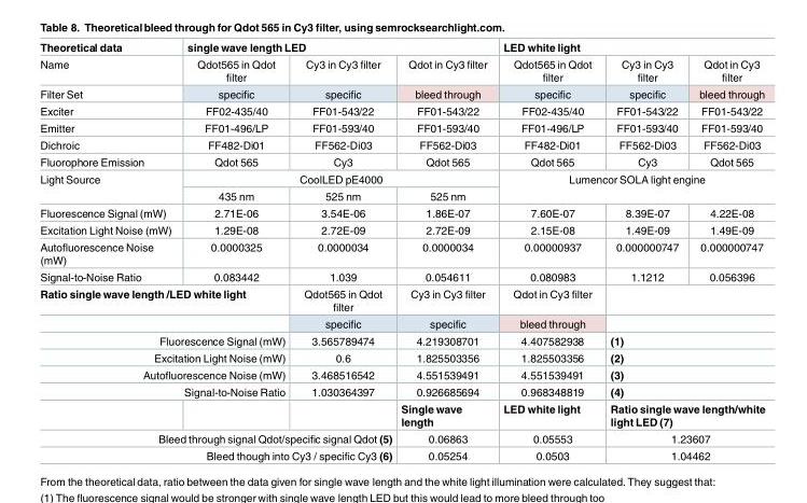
<table><tbody><tr><td>Theoretical data</td><td colspan="3">single wave length LED</td><td colspan="3">LED white light</td></tr><tr><td>Name</td><td>Qdot565 in Qdot filter</td><td>Cy3 in Cy3 filter</td><td>Qdot in Cy3 filter</td><td>Qdot565 in Qdot filter</td><td>Cy3 in Cy3 filter</td><td>Qdot in Cy3 filter</td></tr><tr><td>Filter Set</td><td>specific</td><td>specific</td><td>bleed through</td><td>specific</td><td>specific</td><td>bleed through</td></tr><tr><td>Exciter</td><td>FF02-435/40</td><td>FF01-543/22</td><td>FF01-543/22</td><td>FF02-435/40</td><td>FF01-543/22</td><td>FF01-543/22</td></tr><tr><td>Emitter</td><td>FF01-496/LP</td><td>FF01-593/40</td><td>FF01-593/40</td><td>FF01-496/LP</td><td>FF01-593/40</td><td>FF01-593/40</td></tr><tr><td>Dichroic</td><td>FF482-Di01</td><td>FF562-Di03</td><td>FF562-Di03</td><td>FF482-Di01</td><td>FF562-Di03</td><td>FF562-Di03</td></tr><tr><td>Fluorophore Emission</td><td>Qdot 565</td><td>Cy3</td><td>Qdot 565</td><td>Qdot 565</td><td>Cy3</td><td>Qdot 565</td></tr><tr><td rowspan="2">Light Source</td><td colspan="3">CoolLED pE4000</td><td rowspan="2" colspan="3">Lumencor SOLA light engine</td></tr><tr><td>435 nm</td><td>525 nm</td><td>525 nm</td></tr><tr><td>Fluorescence Signal (mW)</td><td>2.71E-06</td><td>3.54E-06</td><td>1.86E-07</td><td>7.60E-07</td><td>8.39E-07</td><td>4.22E-08</td></tr><tr><td>Excitation Light Noise (mW)</td><td>1.29E-08</td><td>2.72E-09</td><td>2.72E-09</td><td>2.15E-08</td><td>1.49E-09</td><td>1.49E-09</td></tr><tr><td>Autofluorescence Noise (mW)</td><td>0.0000325</td><td>0.0000034</td><td>0.0000034</td><td>0.00000937</td><td>0.000000747</td><td>0.000000747</td></tr><tr><td>Signal-to-Noise Ratio</td><td>0.083442</td><td>1.039</td><td>0.054611</td><td>0.080983</td><td>1.1212</td><td>0.056396</td></tr><tr><td rowspan="2" colspan="2">Ratio single wave length /LED white light</td><td>Qdot565 in Qdot filter</td><td>Cy3 in Cy3 filter</td><td>Qdot in Cy3 filter</td><td colspan="2"></td></tr><tr><td>specific</td><td>specific</td><td>bleed through</td><td colspan="2"></td></tr><tr><td colspan="2">Fluorescence Signal (mW)</td><td>3.565789474</td><td>4.219308701</td><td>4.407582938</td><td colspan="2">(1)</td></tr><tr><td colspan="2">Excitation Light Noise (mW)</td><td>0.6</td><td>1.825503356</td><td>1.825503356</td><td colspan="2">(2)</td></tr><tr><td colspan="2">Autofluorescence Noise (mW)</td><td>3.468516542</td><td>4.551539491</td><td>4.551539491</td><td colspan="2">(3)</td></tr><tr><td colspan="2">Signal-to-Noise Ratio</td><td>1.030364397</td><td>0.926685694</td><td>0.968348819</td><td colspan="2">(4)</td></tr><tr><td></td><td></td><td></td><td>Single wave length</td><td>LED white light</td><td colspan="2">Ratio single wave length/white light LED (7)</td></tr><tr><td colspan="3">Bleed through signal Qdot/specific signal Qdot (5)</td><td>0.06863</td><td>0.05553</td><td colspan="2">1.23607</td></tr><tr><td colspan="3">Bleed though into Cy3 / specific Cy3 (6)</td><td>0.05254</td><td>0.0503</td><td colspan="2">1.04462</td></tr></tbody></table>